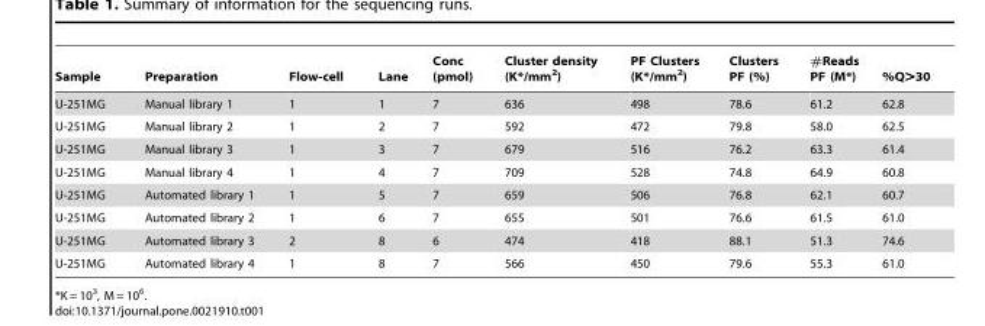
<table><thead><tr><td>Sample</td><td>Preparation</td><td>Flow-cell</td><td>Lane</td><td>Conc (pmol)</td><td>Cluster density (K*/mm<sup>2</sup>)</td><td>PF Clusters (K*/mm<sup>2</sup>)</td><td>Clusters PF (%)</td><td>#Reads PF (M*)</td><td>%Q&gt;30</td></tr></thead><tbody><tr><td>U-251MG</td><td>Manual library 1</td><td>1</td><td>1</td><td>7</td><td>636</td><td>498</td><td>78.6</td><td>61.2</td><td>62.8</td></tr><tr><td>U-251MG</td><td>Manual library 2</td><td>1</td><td>2</td><td>7</td><td>592</td><td>472</td><td>79.8</td><td>58.0</td><td>62.5</td></tr><tr><td>U-251MG</td><td>Manual library 3</td><td>1</td><td>3</td><td>7</td><td>679</td><td>516</td><td>76.2</td><td>63.3</td><td>61.4</td></tr><tr><td>U-251MG</td><td>Manual library 4</td><td>1</td><td>4</td><td>7</td><td>709</td><td>528</td><td>74.8</td><td>64.9</td><td>60.8</td></tr><tr><td>U-251MG</td><td>Automated library 1</td><td>1</td><td>5</td><td>7</td><td>659</td><td>506</td><td>76.8</td><td>62.1</td><td>60.7</td></tr><tr><td>U-251MG</td><td>Automated library 2</td><td>1</td><td>6</td><td>7</td><td>655</td><td>501</td><td>76.6</td><td>61.5</td><td>61.0</td></tr><tr><td>U-251MG</td><td>Automated library 3</td><td>2</td><td>8</td><td>6</td><td>474</td><td>418</td><td>88.1</td><td>51.3</td><td>74.6</td></tr><tr><td>U-251MG</td><td>Automated library 4</td><td>1</td><td>8</td><td>7</td><td>566</td><td>450</td><td>79.6</td><td>55.3</td><td>61.0</td></tr></tbody></table>